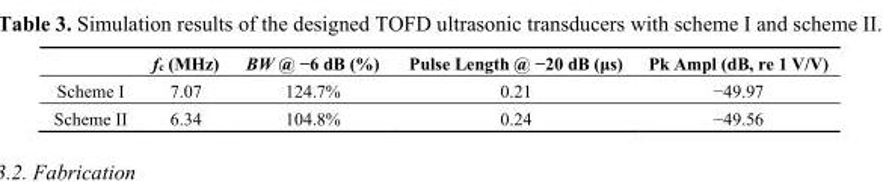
<table><thead><tr><td></td><td>f<sub>c</sub> (MHz)</td><td>BW @ −6 dB (%)</td><td>Pulse Length @ −20 dB (μs)</td><td>Pk Ampl (dB, re 1 V/V)</td></tr></thead><tbody><tr><td>Scheme I</td><td>7.07</td><td>124.7%</td><td>0.21</td><td>−49.97</td></tr><tr><td>Scheme II</td><td>6.34</td><td>104.8%</td><td>0.24</td><td>−49.56</td></tr></tbody></table>